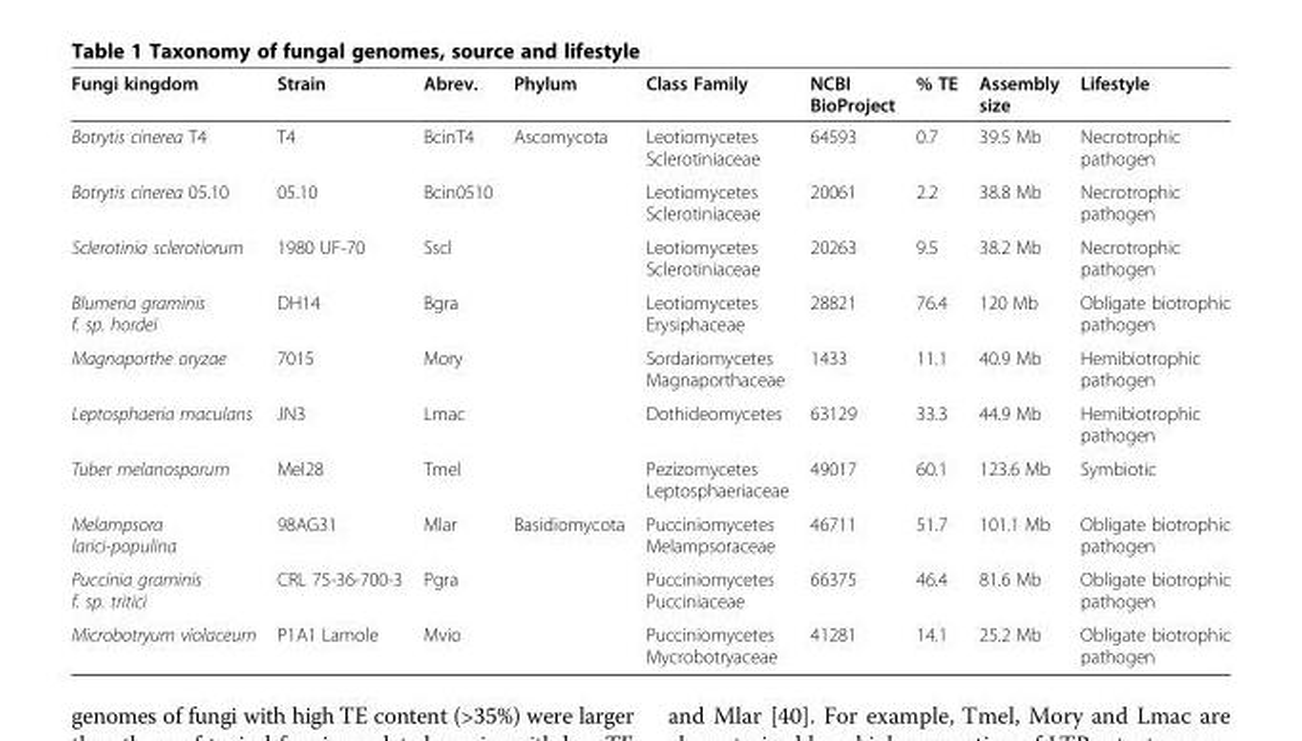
<table><thead><tr><td>Fungi kingdom</td><td>Strain</td><td>Abrev.</td><td>Phylum</td><td>Class Family</td><td>NCBI BioProject</td><td>% TE</td><td>Assembly size</td><td>Lifestyle</td></tr></thead><tbody><tr><td>Botrytis cinerea T4</td><td>T4</td><td>BcinT4</td><td rowspan="7">Ascomycota</td><td>Leotiomycetes Sclerotiniaceae</td><td>64593</td><td>0.7</td><td>39.5 Mb</td><td>Necrotrophic pathogen</td></tr><tr><td>Botrytis cinerea 05.10</td><td>05.10</td><td>Bcin0510</td><td>Leotiomycetes Sclerotiniaceae</td><td>20061</td><td>2.2</td><td>38.8 Mb</td><td>Necrotrophic pathogen</td></tr><tr><td>Sclerotinia sclerotiorum</td><td>1980 UF-70</td><td>Sscl</td><td>Leotiomycetes Sclerotiniaceae</td><td>20263</td><td>9.5</td><td>38.2 Mb</td><td>Necrotrophic pathogen</td></tr><tr><td>Blumeria graminis f. sp. hordeï</td><td>DH14</td><td>Bgra</td><td>Leotiomycetes Erysiphaceae</td><td>28821</td><td>76.4</td><td>120 Mb</td><td>Obligate biotrophic pathogen</td></tr><tr><td>Magnaporthe oryzae</td><td>7015</td><td>Mory</td><td>Sordariomycetes Magnaporthaceae</td><td>1433</td><td>11.1</td><td>40.9 Mb</td><td>Hemibiotrophic pathogen</td></tr><tr><td>Leptosphaeria maculans</td><td>JN3</td><td>Lmac</td><td>Dothideomycetes</td><td>63129</td><td>33.3</td><td>44.9 Mb</td><td>Hemibiotrophic pathogen</td></tr><tr><td>Tuber melanosporum</td><td>Mel28</td><td>Tmel</td><td>Pezizomycetes Leptosphaeriaceae</td><td>49017</td><td>60.1</td><td>123.6 Mb</td><td>Symbiotic</td></tr><tr><td>Melampsora larici-populina</td><td>98AG31</td><td>Mlar</td><td rowspan="3">Basidiomycota</td><td>Pucciniomycetes Melampsoraceae</td><td>46711</td><td>51.7</td><td>101.1 Mb</td><td>Obligate biotrophic pathogen</td></tr><tr><td>Puccinia graminis f. sp. tritici</td><td>CRL 75-36-700-3</td><td>Pgra</td><td>Pucciniomycetes Pucciniaceae</td><td>66375</td><td>46.4</td><td>81.6 Mb</td><td>Obligate biotrophic pathogen</td></tr><tr><td>Microbotryum violaceum</td><td>P1A1 Lamole</td><td>Mvio</td><td>Pucciniomycetes Mycrobotryaceae</td><td>41281</td><td>14.1</td><td>25.2 Mb</td><td>Obligate biotrophic pathogen</td></tr></tbody></table>